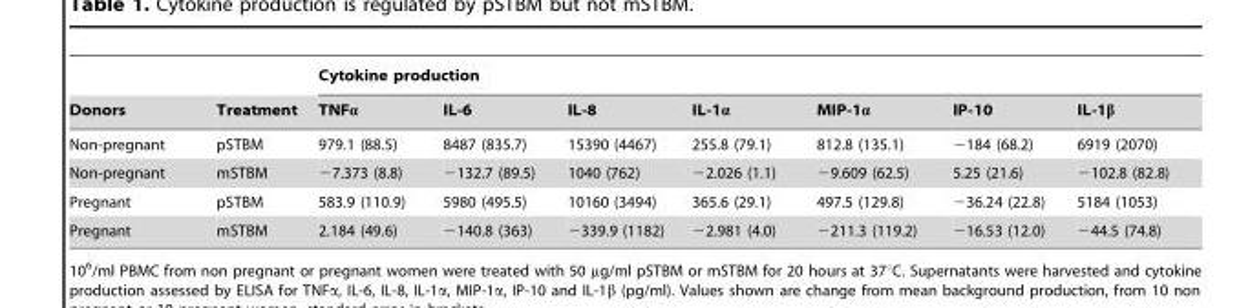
<table><thead><tr><td rowspan="2">Donors</td><td rowspan="2">Treatment</td><td colspan="7">Cytokine production</td></tr><tr><td>TNFα</td><td>IL-6</td><td>IL-8</td><td>IL-1α</td><td>MIP-1α</td><td>IP-10</td><td>IL-1β</td></tr></thead><tbody><tr><td>Non-pregnant</td><td>pSTBM</td><td>979.1 (88.5)</td><td>8487 (835.7)</td><td>15390 (4467)</td><td>255.8 (79.1)</td><td>812.8 (135.1)</td><td>−184 (68.2)</td><td>6919 (2070)</td></tr><tr><td>Non-pregnant</td><td>mSTBM</td><td>−7.373 (8.8)</td><td>−132.7 (89.5)</td><td>1040 (762)</td><td>−2.026 (1.1)</td><td>−9.609 (62.5)</td><td>5.25 (21.6)</td><td>−102.8 (82.8)</td></tr><tr><td>Pregnant</td><td>pSTBM</td><td>583.9 (110.9)</td><td>5980 (495.5)</td><td>10160 (3494)</td><td>365.6 (29.1)</td><td>497.5 (129.8)</td><td>−36.24 (22.8)</td><td>5184 (1053)</td></tr><tr><td>Pregnant</td><td>mSTBM</td><td>2.184 (49.6)</td><td>−140.8 (363)</td><td>−339.9 (1182)</td><td>−2.981 (4.0)</td><td>−211.3 (119.2)</td><td>−16.53 (12.0)</td><td>−44.5 (74.8)</td></tr></tbody></table>